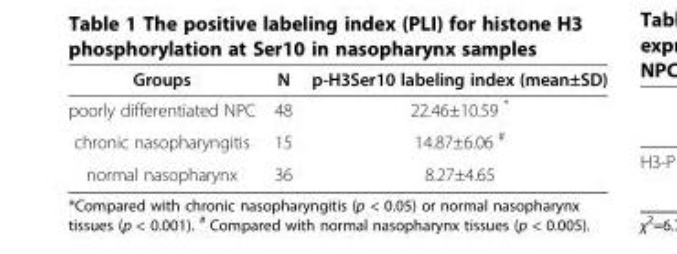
<table><thead><tr><td>Groups</td><td>N</td><td>p-H3Ser10 labeling index (mean±SD)</td></tr></thead><tbody><tr><td>poorly differentiated NPC</td><td>48</td><td>22.46±10.59 *</td></tr><tr><td>chronic nasopharyngitis</td><td>15</td><td>14.87±6.06 <sup>#</sup></td></tr><tr><td>normal nasopharynx</td><td>36</td><td>8.27±4.65</td></tr></tbody></table>